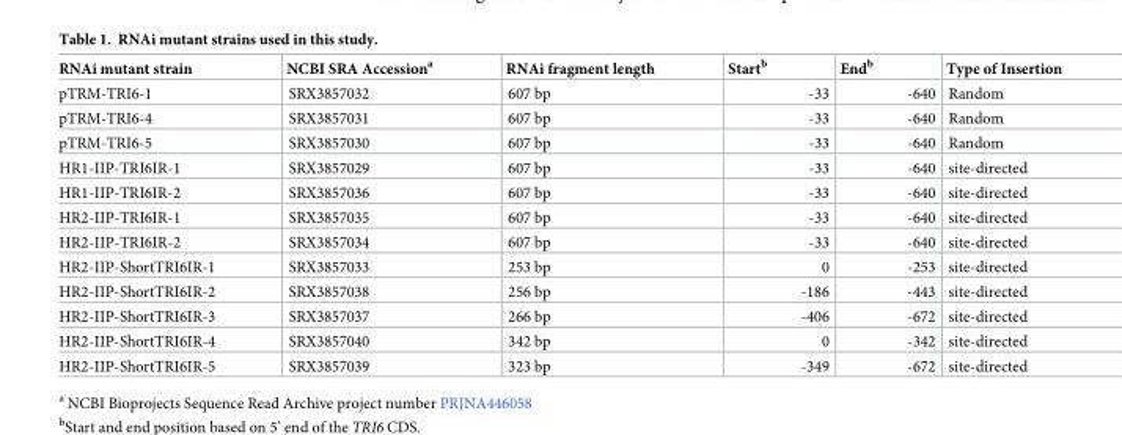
<table><thead><tr><td>RNAi mutant strain</td><td>NCBI SRA Accession<sup>a</sup></td><td>RNAi fragment length</td><td>Start<sup>b</sup></td><td>End<sup>b</sup></td><td>Type of Insertion</td></tr></thead><tbody><tr><td>pTRM-TRI6-1</td><td>SRX3857032</td><td>607 bp</td><td>-33</td><td>-640</td><td>Random</td></tr><tr><td>pTRM-TRI6-4</td><td>SRX3857031</td><td>607 bp</td><td>-33</td><td>-640</td><td>Random</td></tr><tr><td>pTRM-TRI6-5</td><td>SRX3857030</td><td>607 bp</td><td>-33</td><td>-640</td><td>Random</td></tr><tr><td>HR1-IIP-TRI6IR-1</td><td>SRX3857029</td><td>607 bp</td><td>-33</td><td>-640</td><td>site-directed</td></tr><tr><td>HR1-IIP-TRI6IR-2</td><td>SRX3857036</td><td>607 bp</td><td>-33</td><td>-640</td><td>site-directed</td></tr><tr><td>HR2-IIP-TRI6IR-1</td><td>SRX3857035</td><td>607 bp</td><td>-33</td><td>-640</td><td>site-directed</td></tr><tr><td>HR2-IIP-TRI6IR-2</td><td>SRX3857034</td><td>607 bp</td><td>-33</td><td>-640</td><td>site-directed</td></tr><tr><td>HR2-IIP-ShortTRI6IR-1</td><td>SRX3857033</td><td>253 bp</td><td>0</td><td>-253</td><td>site-directed</td></tr><tr><td>HR2-IIP-ShortTRI6IR-2</td><td>SRX3857038</td><td>256 bp</td><td>-186</td><td>-443</td><td>site-directed</td></tr><tr><td>HR2-IIP-ShortTRI6IR-3</td><td>SRX3857037</td><td>266 bp</td><td>-406</td><td>-672</td><td>site-directed</td></tr><tr><td>HR2-IIP-ShortTRI6IR-4</td><td>SRX3857040</td><td>342 bp</td><td>0</td><td>-342</td><td>site-directed</td></tr><tr><td>HR2-IIP-ShortTRI6IR-5</td><td>SRX3857039</td><td>323 bp</td><td>-349</td><td>-672</td><td>site-directed</td></tr></tbody></table>